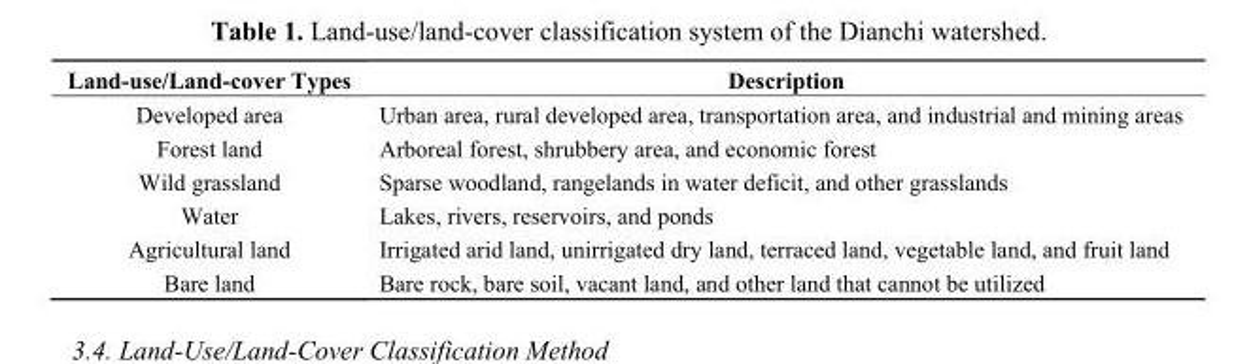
<table><thead><tr><td>Land-use/Land-cover Types</td><td>Description</td></tr></thead><tbody><tr><td>Developed area</td><td>Urban area, rural developed area, transportation area, and industrial and mining areas</td></tr><tr><td>Forest land</td><td>Arboreal forest, shrubbery area, and economic forest</td></tr><tr><td>Wild grassland</td><td>Sparse woodland, rangelands in water deficit, and other grasslands</td></tr><tr><td>Water</td><td>Lakes, rivers, reservoirs, and ponds</td></tr><tr><td>Agricultural land</td><td>Irrigated arid land, unirrigated dry land, terraced land, vegetable land, and fruit land</td></tr><tr><td>Bare land</td><td>Bare rock, bare soil, vacant land, and other land that cannot be utilized</td></tr></tbody></table>